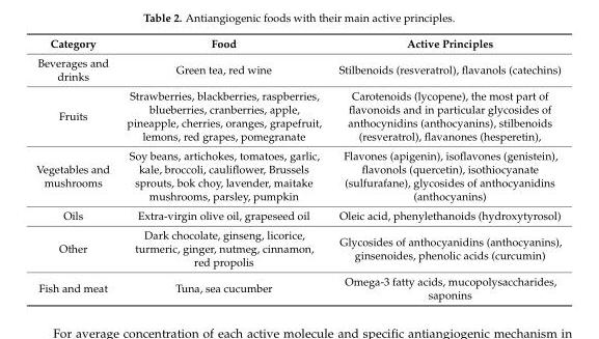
<table><thead><tr><td>Category</td><td>Food</td><td>Active Principles</td></tr></thead><tbody><tr><td>Beverages and drinks</td><td>Green tea, red wine</td><td>Stilbenoids (resveratrol), flavanols (catechins)</td></tr><tr><td>Fruits</td><td>Strawberries, blackberries, raspberries, blueberries, cranberries, apple, pineapple, cherries, oranges, grapefruit, lemons, red grapes, pomegranate</td><td>Carotenoids (lycopene), the most part of flavonoids and in particular glycosides of anthocynidins (anthocyanins), stilbenoids (resveratrol), flavanones (hesperetin),</td></tr><tr><td>Vegetables and mushrooms</td><td>Soy beans, artichokes, tomatoes, garlic, kale, broccoli, cauliflower, Brussels sprouts, bok choy, lavender, maitake mushrooms, parsley, pumpkin</td><td>Flavones (apigenin), isoflavones (genistein), flavonols (quercetin), isothiocyanate (sulfurafane), glycosides of anthocyanidins (anthocyanins)</td></tr><tr><td>Oils</td><td>Extra-virgin olive oil, grapeseed oil</td><td>Oleic acid, phenylethanoids (hydroxytyrosol)</td></tr><tr><td>Other</td><td>Dark chocolate, ginseng, licorice, turmeric, ginger, nutmeg, cinnamon, red propolis</td><td>Glycosides of anthocyanidins (anthocyanins), ginsenoides, phenolic acids (curcumin)</td></tr><tr><td>Fish and meat</td><td>Tuna, sea cucumber</td><td>Omega-3 fatty acids, mucopolysaccharides, saponins</td></tr></tbody></table>